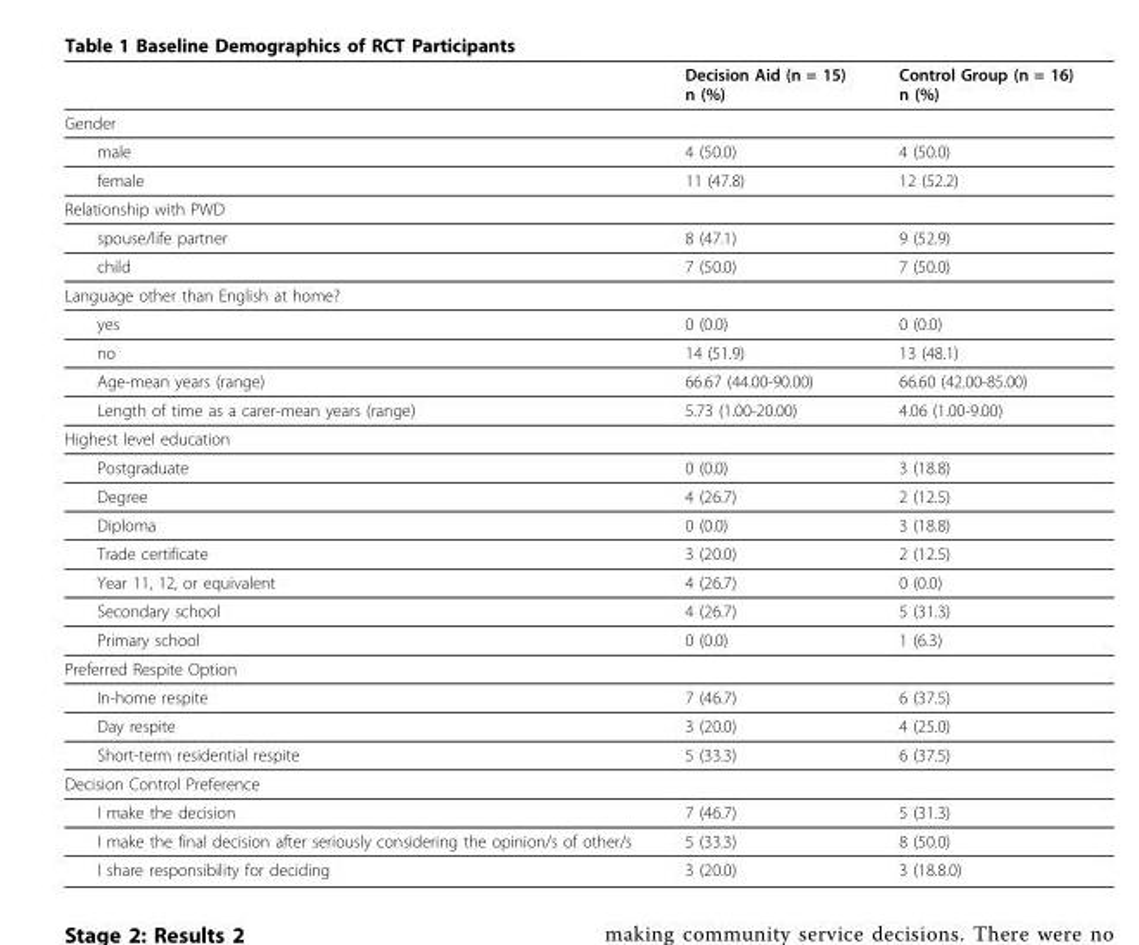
<table><thead><tr><td></td><td>Decision Aid (n = 15) n (%)</td><td>Control Group (n = 16) n (%)</td></tr></thead><tbody><tr><td colspan="3">Gender</td></tr><tr><td>male</td><td>4 (50.0)</td><td>4 (50.0)</td></tr><tr><td>female</td><td>11 (47.8)</td><td>12 (52.2)</td></tr><tr><td colspan="3">Relationship with PWD</td></tr><tr><td>spouse/life partner</td><td>8 (47.1)</td><td>9 (52.9)</td></tr><tr><td>child</td><td>7 (50.0)</td><td>7 (50.0)</td></tr><tr><td colspan="3">Language other than English at home?</td></tr><tr><td>yes</td><td>0 (0.0)</td><td>0 (0.0)</td></tr><tr><td>no</td><td>14 (51.9)</td><td>13 (48.1)</td></tr><tr><td>Age-mean years (range)</td><td>66.67 (44.00-90.00)</td><td>66.60 (42.00-85.00)</td></tr><tr><td>Length of time as a carer-mean years (range)</td><td>5.73 (1.00-20.00)</td><td>4.06 (1.00-9.00)</td></tr><tr><td colspan="3">Highest level education</td></tr><tr><td>Postgraduate</td><td>0 (0.0)</td><td>3 (18.8)</td></tr><tr><td>Degree</td><td>4 (26.7)</td><td>2 (12.5)</td></tr><tr><td>Diploma</td><td>0 (0.0)</td><td>3 (18.8)</td></tr><tr><td>Trade certificate</td><td>3 (20.0)</td><td>2 (12.5)</td></tr><tr><td>Year 11, 12, or equivalent</td><td>4 (26.7)</td><td>0 (0.0)</td></tr><tr><td>Secondary school</td><td>4 (26.7)</td><td>5 (31.3)</td></tr><tr><td>Primary school</td><td>0 (0.0)</td><td>1 (6.3)</td></tr><tr><td colspan="3">Preferred Respite Option</td></tr><tr><td>In-home respite</td><td>7 (46.7)</td><td>6 (37.5)</td></tr><tr><td>Day respite</td><td>3 (20.0)</td><td>4 (25.0)</td></tr><tr><td>Short-term residential respite</td><td>5 (33.3)</td><td>6 (37.5)</td></tr><tr><td colspan="3">Decision Control Preference</td></tr><tr><td>I make the decision</td><td>7 (46.7)</td><td>5 (31.3)</td></tr><tr><td>I make the final decision after seriously considering the opinion/s of other/s</td><td>5 (33.3)</td><td>8 (50.0)</td></tr><tr><td>I share responsibility for deciding</td><td>3 (20.0)</td><td>3 (18.8.0)</td></tr></tbody></table>